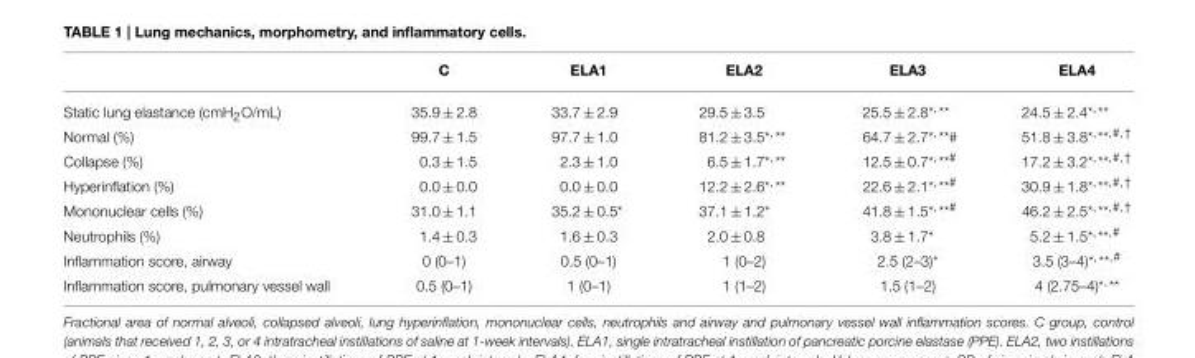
<table><thead><tr><td></td><td>C</td><td>ELA1</td><td>ELA2</td><td>ELA3</td><td>ELA4</td></tr></thead><tbody><tr><td>Static lung elastance (cmH<sub>2</sub>O/mL)</td><td>35.9 ± 2.8</td><td>33.7 ± 2.9</td><td>29.5 ± 3.5</td><td>25.5 ± 2.8<sup>*,**</sup></td><td>24.5 ± 2.4<sup>*,**</sup></td></tr><tr><td>Normal (%)</td><td>99.7 ± 1.5</td><td>97.7 ± 1.0</td><td>81.2 ± 3.5<sup>*,**</sup></td><td>64.7 ± 2.7<sup>*,**#</sup></td><td>51.8 ± 3.8<sup>*,**,#,†</sup></td></tr><tr><td>Collapse (%)</td><td>0.3 ± 1.5</td><td>2.3 ± 1.0</td><td>6.5 ± 1.7<sup>*,**</sup></td><td>12.5 ± 0.7<sup>*,**#</sup></td><td>17.2 ± 3.2<sup>*,**,#,†</sup></td></tr><tr><td>Hyperinflation (%)</td><td>0.0 ± 0.0</td><td>0.0 ± 0.0</td><td>12.2 ± 2.6<sup>*,**</sup></td><td>22.6 ± 2.1<sup>*,**#</sup></td><td>30.9 ± 1.8<sup>*,**,#,†</sup></td></tr><tr><td>Mononuclear cells (%)</td><td>31.0 ± 1.1</td><td>35.2 ± 0.5*</td><td>37.1 ± 1.2*</td><td>41.8 ± 1.5<sup>*,**#</sup></td><td>46.2 ± 2.5<sup>*,**,#,†</sup></td></tr><tr><td>Neutrophils (%)</td><td>1.4 ± 0.3</td><td>1.6 ± 0.3</td><td>2.0 ± 0.8</td><td>3.8 ± 1.7*</td><td>5.2 ± 1.5<sup>*,**,#</sup></td></tr><tr><td>Inflammation score, airway</td><td>0 (0–1)</td><td>0.5 (0–1)</td><td>1 (0–2)</td><td>2.5 (2–3)*</td><td>3.5 (3–4)<sup>*,**,#</sup></td></tr><tr><td>Inflammation score, pulmonary vessel wall</td><td>0.5 (0–1)</td><td>1 (0–1)</td><td>1 (1–2)</td><td>1.5 (1–2)</td><td>4 (2.75–4)<sup>*,**</sup></td></tr></tbody></table>